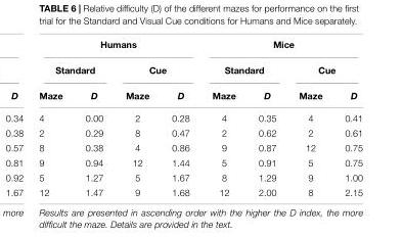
<table><thead><tr><td colspan="4">Humans</td><td colspan="4">Mice</td></tr><tr><td colspan="2">Standard</td><td colspan="2">Cue</td><td colspan="2">Standard</td><td colspan="2">Cue</td></tr><tr><td>Maze</td><td>D</td><td>Maze</td><td>D</td><td>Maze</td><td>D</td><td>Maze</td><td>D</td></tr></thead><tbody><tr><td>4</td><td>0.00</td><td>2</td><td>0.28</td><td>4</td><td>0.35</td><td>4</td><td>0.41</td></tr><tr><td>2</td><td>0.29</td><td>8</td><td>0.47</td><td>2</td><td>0.62</td><td>2</td><td>0.61</td></tr><tr><td>8</td><td>0.38</td><td>4</td><td>0.86</td><td>9</td><td>0.87</td><td>12</td><td>0.75</td></tr><tr><td>9</td><td>0.94</td><td>12</td><td>1.44</td><td>5</td><td>0.91</td><td>5</td><td>0.75</td></tr><tr><td>5</td><td>1.27</td><td>5</td><td>1.67</td><td>8</td><td>1.29</td><td>9</td><td>1.00</td></tr><tr><td>12</td><td>1.47</td><td>9</td><td>1.68</td><td>12</td><td>2.00</td><td>8</td><td>2.15</td></tr></tbody></table>